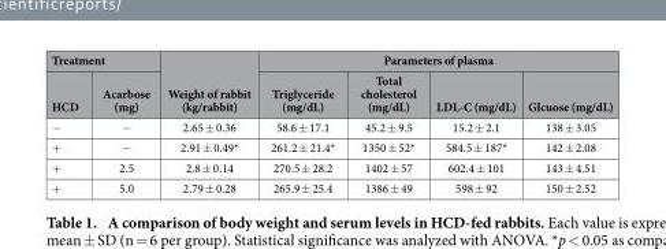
<table><thead><tr><td colspan="2">Treatment</td><td rowspan="2">Weight of rabbit (kg/rabbit)</td><td colspan="4">Parameters of plasma</td></tr><tr><td>HCD</td><td>Acarbose (mg)</td><td>Triglyceride (mg/dL)</td><td>Total cholesterol (mg/dL)</td><td>LDL-C (mg/dL)</td><td>Glcuose (mg/dL)</td></tr></thead><tbody><tr><td>−</td><td>−</td><td>2.65 ± 0.36</td><td>58.6 ± 17.1</td><td>45.2 ± 9.5</td><td>15.2 ± 2.1</td><td>138 ± 3.05</td></tr><tr><td>+</td><td>−</td><td>2.91 ± 0.49*</td><td>261.2 ± 21.4*</td><td>1350 ± 52*</td><td>584.5 ± 187*</td><td>142 ± 2.08</td></tr><tr><td>+</td><td>2.5</td><td>2.8 ± 0.14</td><td>270.5 ± 28.2</td><td>1402 ± 57</td><td>602.4 ± 101</td><td>143 ± 4.51</td></tr><tr><td>+</td><td>5.0</td><td>2.79 ± 0.28</td><td>265.9 ± 25.4</td><td>1386 ± 49</td><td>598 ± 92</td><td>150 ± 2.52</td></tr></tbody></table>